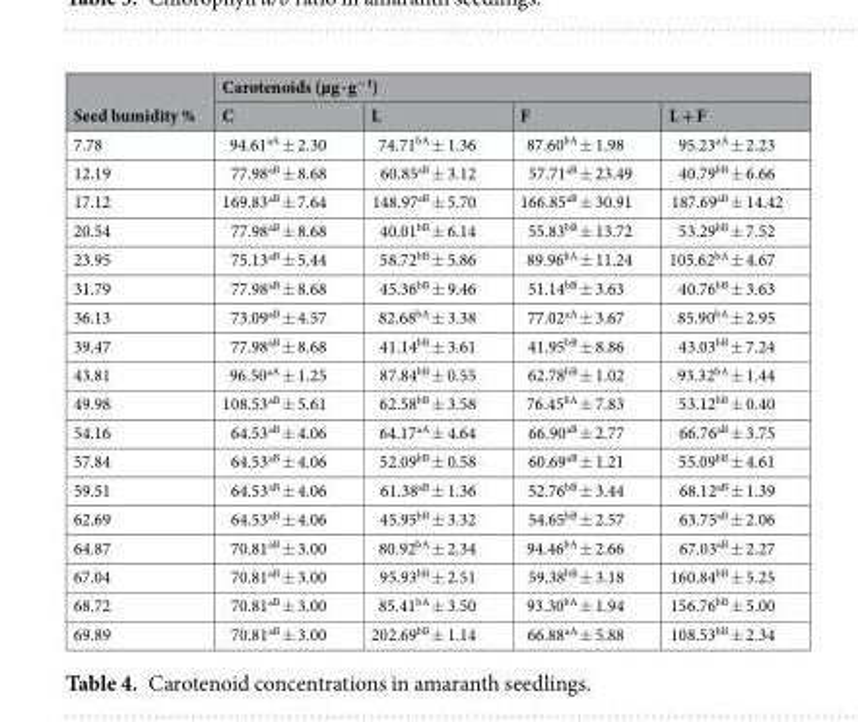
<table><thead><tr><td rowspan="2">Seed humidity %</td><td colspan="4">Carotenoids (µg · g<sup>−1</sup>)</td></tr><tr><td>C</td><td>L</td><td>F</td><td>L + F</td></tr></thead><tbody><tr><td>7.78</td><td>94.61<sup>aA</sup> ± 2.30</td><td>74.71<sup>bA</sup> ± 1.36</td><td>87.60<sup>bA</sup> ± 1.98</td><td>95.23<sup>aA</sup> ± 2.23</td></tr><tr><td>12.19</td><td>77.98<sup>aB</sup> ± 8.68</td><td>60.85<sup>aB</sup> ± 3.12</td><td>57.71<sup>aB</sup> ± 23.49</td><td>40.79<sup>bB</sup> ± 6.66</td></tr><tr><td>17.12</td><td>169.83<sup>aB</sup> ± 7.64</td><td>148.97<sup>aB</sup> ± 5.70</td><td>166.85<sup>aB</sup> ± 30.91</td><td>187.69<sup>aB</sup> ± 14.42</td></tr><tr><td>20.54</td><td>77.98<sup>aB</sup> ± 8.68</td><td>40.01<sup>bB</sup> ± 6.14</td><td>55.83<sup>bB</sup> ± 13.72</td><td>53.29<sup>bB</sup> ± 7.52</td></tr><tr><td>23.95</td><td>75.13<sup>aB</sup> ± 5.44</td><td>58.72<sup>bB</sup> ± 5.86</td><td>89.96<sup>bA</sup> ± 11.24</td><td>105.62<sup>bA</sup> ± 4.67</td></tr><tr><td>31.79</td><td>77.98<sup>aB</sup> ± 8.68</td><td>45.36<sup>bB</sup> ± 9.46</td><td>51.14<sup>bB</sup> ± 3.63</td><td>40.76<sup>bB</sup> ± 3.63</td></tr><tr><td>36.13</td><td>73.09<sup>aB</sup> ± 4.57</td><td>82.68<sup>bA</sup> ± 3.38</td><td>77.02<sup>aA</sup> ± 3.67</td><td>85.90<sup>bA</sup> ± 2.95</td></tr><tr><td>39.47</td><td>77.98<sup>aB</sup> ± 8.68</td><td>41.14<sup>bB</sup> ± 3.61</td><td>41.95<sup>bB</sup> ± 8.86</td><td>43.03<sup>bB</sup> ± 7.24</td></tr><tr><td>43.81</td><td>96.50<sup>aA</sup> ± 1.25</td><td>87.84<sup>bB</sup> ± 0.55</td><td>62.78<sup>bB</sup> ± 1.02</td><td>93.32<sup>bA</sup> ± 1.44</td></tr><tr><td>49.98</td><td>108.53<sup>aB</sup> ± 5.61</td><td>62.58<sup>bB</sup> ± 3.58</td><td>76.45<sup>bA</sup> ± 7.83</td><td>53.12<sup>bB</sup> ± 0.40</td></tr><tr><td>54.16</td><td>64.53<sup>aB</sup> ± 4.06</td><td>64.17<sup>aA</sup> ± 4.64</td><td>66.90<sup>aB</sup> ± 2.77</td><td>66.76<sup>aB</sup> ± 3.75</td></tr><tr><td>57.84</td><td>64.53<sup>aB</sup> ± 4.06</td><td>52.09<sup>bB</sup> ± 0.58</td><td>60.69<sup>aB</sup> ± 1.21</td><td>55.09<sup>bB</sup> ± 4.61</td></tr><tr><td>59.51</td><td>64.53<sup>aB</sup> ± 4.06</td><td>61.38<sup>aB</sup> ± 1.36</td><td>52.76<sup>bB</sup> ± 3.44</td><td>68.12<sup>aB</sup> ± 1.39</td></tr><tr><td>62.69</td><td>64.53<sup>aB</sup> ± 4.06</td><td>45.95<sup>bB</sup> ± 3.32</td><td>54.65<sup>bB</sup> ± 2.57</td><td>63.75<sup>aB</sup> ± 2.06</td></tr><tr><td>64.87</td><td>70.81<sup>aB</sup> ± 3.00</td><td>80.92<sup>bA</sup> ± 2.34</td><td>94.46<sup>bA</sup> ± 2.66</td><td>67.03<sup>aB</sup> ± 2.27</td></tr><tr><td>67.04</td><td>70.81<sup>aB</sup> ± 3.00</td><td>95.93<sup>bB</sup> ± 2.51</td><td>59.38<sup>bB</sup> ± 3.18</td><td>160.84<sup>bB</sup> ± 5.25</td></tr><tr><td>68.72</td><td>70.81<sup>aB</sup> ± 3.00</td><td>85.41<sup>bA</sup> ± 3.50</td><td>93.30<sup>bA</sup> ± 1.94</td><td>156.76<sup>bB</sup> ± 5.00</td></tr><tr><td>69.89</td><td>70.81<sup>aB</sup> ± 3.00</td><td>202.69<sup>bB</sup> ± 1.14</td><td>66.88<sup>aA</sup> ± 5.88</td><td>108.53<sup>bB</sup> ± 2.34</td></tr></tbody></table>